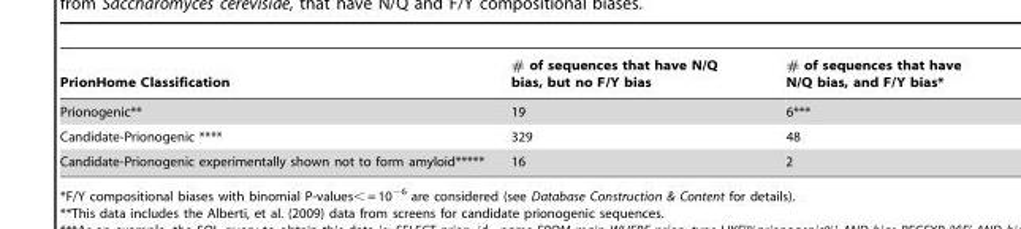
<table><thead><tr><td>PrionHome Classification</td><td># of sequences that have N/Q bias, but no F/Y bias</td><td># of sequences that have N/Q bias, and F/Y bias*</td></tr></thead><tbody><tr><td>Prionogenic**</td><td>19</td><td>6***</td></tr><tr><td>Candidate-Prionogenic ****</td><td>329</td><td>48</td></tr><tr><td>Candidate-Prionogenic experimentally shown not to form amyloid*****</td><td>16</td><td>2</td></tr></tbody></table>